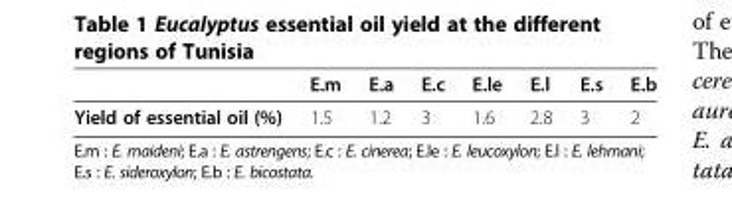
<table><thead><tr><td></td><td>E.m</td><td>E.a</td><td>E.c</td><td>E.le</td><td>E.l</td><td>E.s</td><td>E.b</td></tr></thead><tbody><tr><td>Yield of essential oil (%)</td><td>1.5</td><td>1.2</td><td>3</td><td>1.6</td><td>2.8</td><td>3</td><td>2</td></tr></tbody></table>